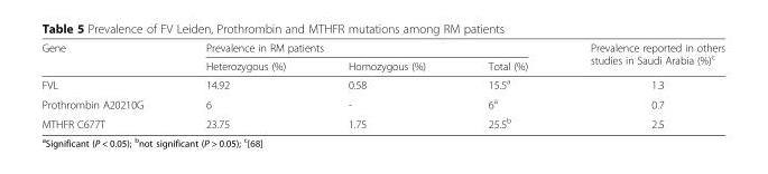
<table><thead><tr><td rowspan="2">Gene</td><td colspan="3">Prevalence in RM patients</td><td rowspan="2">Prevalence reported in others studies in Saudi Arabia (%)<sup>c</sup></td></tr><tr><td>Heterozygous (%)</td><td>Homozygous (%)</td><td>Total (%)</td></tr></thead><tbody><tr><td>FVL</td><td>14.92</td><td>0.58</td><td>15.5<sup>a</sup></td><td>1.3</td></tr><tr><td>Prothrombin A20210G</td><td>6</td><td>-</td><td>6<sup>a</sup></td><td>0.7</td></tr><tr><td>MTHFR C677T</td><td>23.75</td><td>1.75</td><td>25.5<sup>b</sup></td><td>2.5</td></tr></tbody></table>